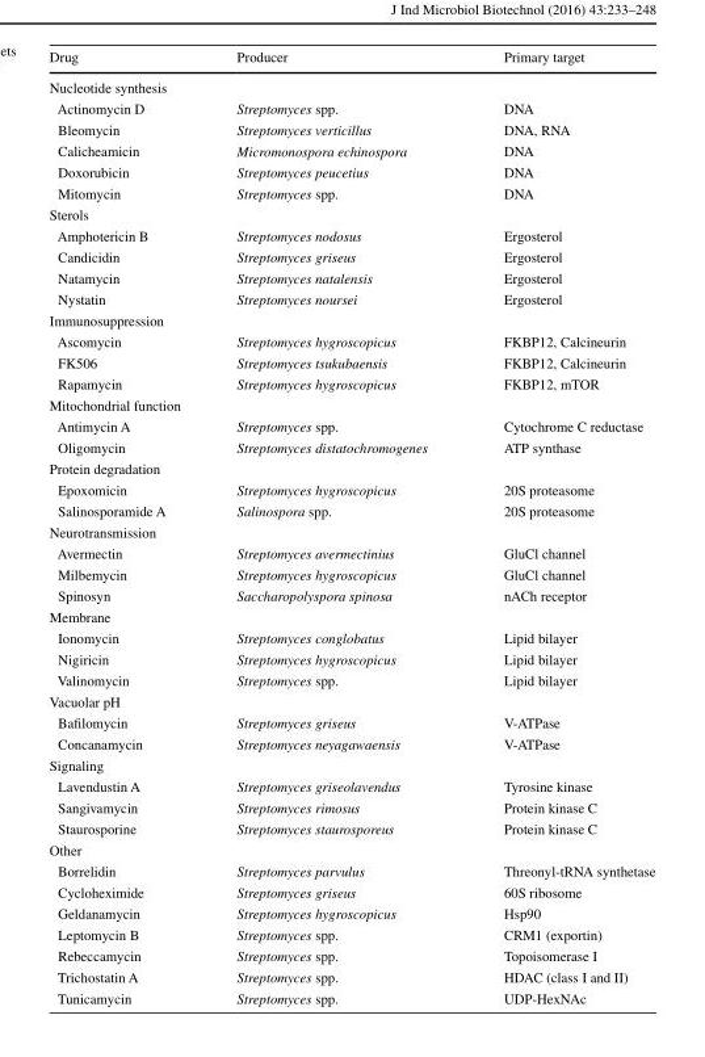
<table><thead><tr><td>Drug</td><td>Producer</td><td>Primary target</td></tr></thead><tbody><tr><td colspan="3">Nucleotide synthesis</td></tr><tr><td>Actinomycin D</td><td>Streptomyces spp.</td><td>DNA</td></tr><tr><td>Bleomycin</td><td>Streptomyces verticillus</td><td>DNA, RNA</td></tr><tr><td>Calicheamicin</td><td>Micromonospora echinospora</td><td>DNA</td></tr><tr><td>Doxorubicin</td><td>Streptomyces peucetius</td><td>DNA</td></tr><tr><td>Mitomycin</td><td>Streptomyces spp.</td><td>DNA</td></tr><tr><td colspan="3">Sterols</td></tr><tr><td>Amphotericin B</td><td>Streptomyces nodosus</td><td>Ergosterol</td></tr><tr><td>Candicidin</td><td>Streptomyces griseus</td><td>Ergosterol</td></tr><tr><td>Natamycin</td><td>Streptomyces natalensis</td><td>Ergosterol</td></tr><tr><td>Nystatin</td><td>Streptomyces noursei</td><td>Ergosterol</td></tr><tr><td colspan="3">Immunosuppression</td></tr><tr><td>Ascomycin</td><td>Streptomyces hygroscopicus</td><td>FKBP12, Calcineurin</td></tr><tr><td>FK506</td><td>Streptomyces tsukubaensis</td><td>FKBP12, Calcineurin</td></tr><tr><td>Rapamycin</td><td>Streptomyces hygroscopicus</td><td>FKBP12, mTOR</td></tr><tr><td colspan="3">Mitochondrial function</td></tr><tr><td>Antimycin A</td><td>Streptomyces spp.</td><td>Cytochrome C reductase</td></tr><tr><td>Oligomycin</td><td>Streptomyces distatochromogenes</td><td>ATP synthase</td></tr><tr><td colspan="3">Protein degradation</td></tr><tr><td>Epoxomicin</td><td>Streptomyces hygroscopicus</td><td>20S proteasome</td></tr><tr><td>Salinosporamide A</td><td>Salinospora spp.</td><td>20S proteasome</td></tr><tr><td colspan="3">Neurotransmission</td></tr><tr><td>Avermectin</td><td>Streptomyces avermectinius</td><td>GluCl channel</td></tr><tr><td>Milbemycin</td><td>Streptomyces hygroscopicus</td><td>GluCl channel</td></tr><tr><td>Spinosyn</td><td>Saccharopolyspora spinosa</td><td>nACh receptor</td></tr><tr><td colspan="3">Membrane</td></tr><tr><td>Ionomycin</td><td>Streptomyces conglobatus</td><td>Lipid bilayer</td></tr><tr><td>Nigiricin</td><td>Streptomyces hygroscopicus</td><td>Lipid bilayer</td></tr><tr><td>Valinomycin</td><td>Streptomyces spp.</td><td>Lipid bilayer</td></tr><tr><td colspan="3">Vacuolar pH</td></tr><tr><td>Bafilomycin</td><td>Streptomyces griseus</td><td>V-ATPase</td></tr><tr><td>Concanamycin</td><td>Streptomyces neyagawaensis</td><td>V-ATPase</td></tr><tr><td colspan="3">Signaling</td></tr><tr><td>Lavendustin A</td><td>Streptomyces griseolavendus</td><td>Tyrosine kinase</td></tr><tr><td>Sangivamycin</td><td>Streptomyces rimosus</td><td>Protein kinase C</td></tr><tr><td>Staurosporine</td><td>Streptomyces staurosporeus</td><td>Protein kinase C</td></tr><tr><td colspan="3">Other</td></tr><tr><td>Borrelidin</td><td>Streptomyces parvulus</td><td>Threonyl-tRNA synthetase</td></tr><tr><td>Cycloheximide</td><td>Streptomyces griseus</td><td>60S ribosome</td></tr><tr><td>Geldanamycin</td><td>Streptomyces hygroscopicus</td><td>Hsp90</td></tr><tr><td>Leptomycin B</td><td>Streptomyces spp.</td><td>CRM1 (exportin)</td></tr><tr><td>Rebeccamycin</td><td>Streptomyces spp.</td><td>Topoisomerase I</td></tr><tr><td>Trichostatin A</td><td>Streptomyces spp.</td><td>HDAC (class I and II)</td></tr><tr><td>Tunicamycin</td><td>Streptomyces spp.</td><td>UDP-HexNAc</td></tr></tbody></table>